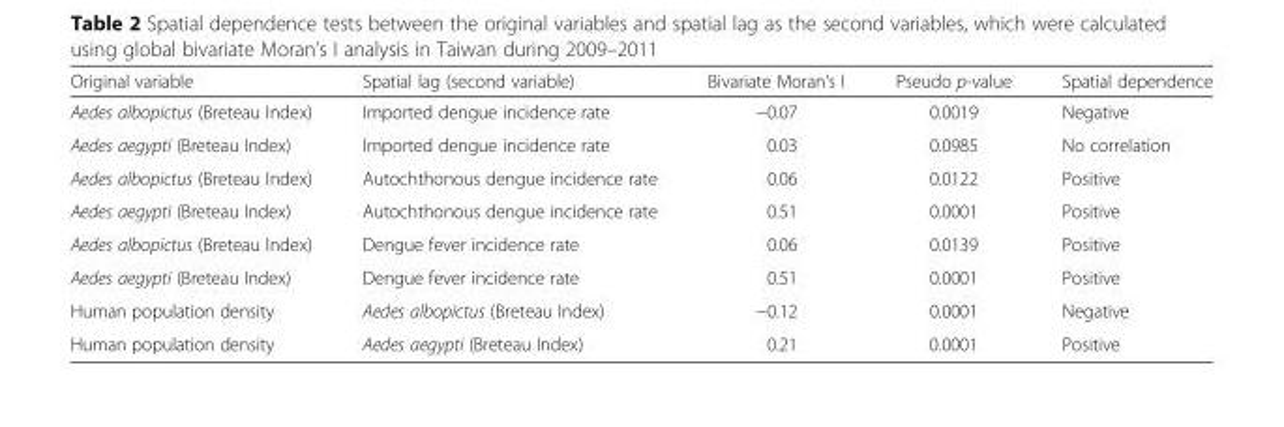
<table><thead><tr><td>Original variable</td><td>Spatial lag (second variable)</td><td>Bivariate Moran’s I</td><td>Pseudo p-value</td><td>Spatial dependence</td></tr></thead><tbody><tr><td>Aedes albopictus (Breteau Index)</td><td>Imported dengue incidence rate</td><td>−0.07</td><td>0.0019</td><td>Negative</td></tr><tr><td>Aedes aegypti (Breteau Index)</td><td>Imported dengue incidence rate</td><td>0.03</td><td>0.0985</td><td>No correlation</td></tr><tr><td>Aedes albopictus (Breteau Index)</td><td>Autochthonous dengue incidence rate</td><td>0.06</td><td>0.0122</td><td>Positive</td></tr><tr><td>Aedes aegypti (Breteau Index)</td><td>Autochthonous dengue incidence rate</td><td>0.51</td><td>0.0001</td><td>Positive</td></tr><tr><td>Aedes albopictus (Breteau Index)</td><td>Dengue fever incidence rate</td><td>0.06</td><td>0.0139</td><td>Positive</td></tr><tr><td>Aedes aegypti (Breteau Index)</td><td>Dengue fever incidence rate</td><td>0.51</td><td>0.0001</td><td>Positive</td></tr><tr><td>Human population density</td><td>Aedes albopictus (Breteau Index)</td><td>−0.12</td><td>0.0001</td><td>Negative</td></tr><tr><td>Human population density</td><td>Aedes aegypti (Breteau Index)</td><td>0.21</td><td>0.0001</td><td>Positive</td></tr></tbody></table>